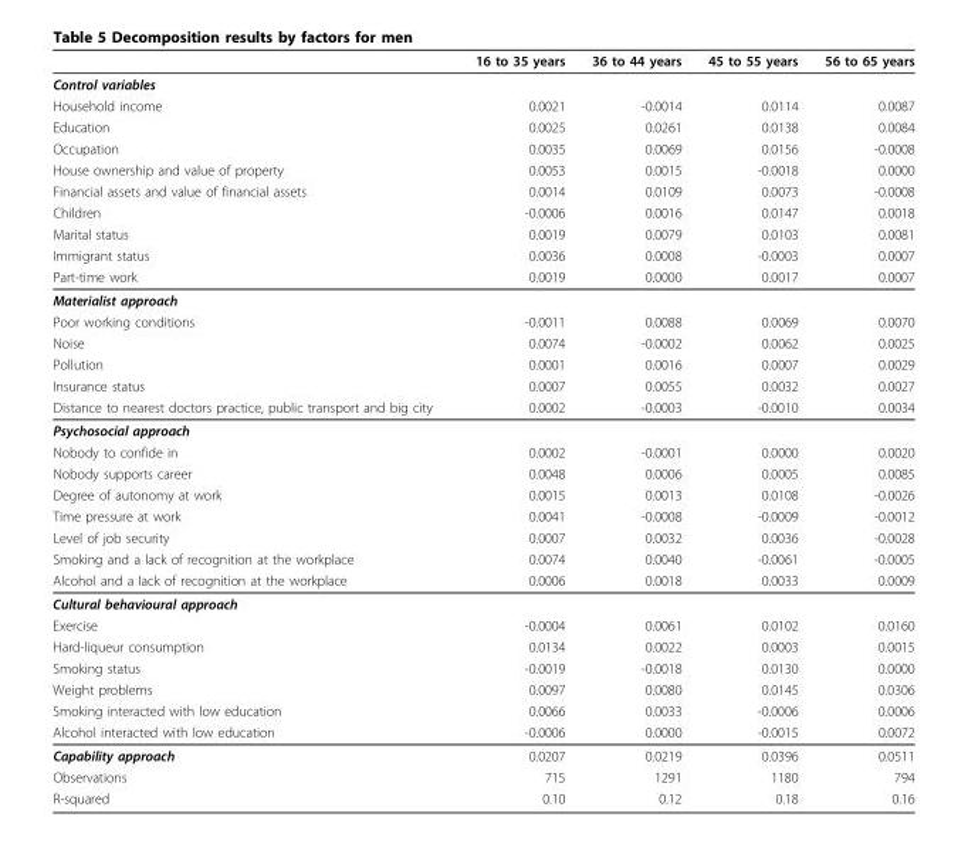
<table><thead><tr><td></td><td>16 to 35 years</td><td>36 to 44 years</td><td>45 to 55 years</td><td>56 to 65 years</td></tr></thead><tbody><tr><td colspan="5">Control variables</td></tr><tr><td>Household income</td><td>0.0021</td><td>-0.0014</td><td>0.0114</td><td>0.0087</td></tr><tr><td>Education</td><td>0.0025</td><td>0.0261</td><td>0.0138</td><td>0.0084</td></tr><tr><td>Occupation</td><td>0.0035</td><td>0.0069</td><td>0.0156</td><td>-0.0008</td></tr><tr><td>House ownership and value of property</td><td>0.0053</td><td>0.0015</td><td>-0.0018</td><td>0.0000</td></tr><tr><td>Financial assets and value of financial assets</td><td>0.0014</td><td>0.0109</td><td>0.0073</td><td>-0.0008</td></tr><tr><td>Children</td><td>-0.0006</td><td>0.0016</td><td>0.0147</td><td>0.0018</td></tr><tr><td>Marital status</td><td>0.0019</td><td>0.0079</td><td>0.0103</td><td>0.0081</td></tr><tr><td>Immigrant status</td><td>0.0036</td><td>0.0008</td><td>-0.0003</td><td>0.0007</td></tr><tr><td>Part-time work</td><td>0.0019</td><td>0.0000</td><td>0.0017</td><td>0.0007</td></tr><tr><td colspan="5">Materialist approach</td></tr><tr><td>Poor working conditions</td><td>-0.0011</td><td>0.0088</td><td>0.0069</td><td>0.0070</td></tr><tr><td>Noise</td><td>0.0074</td><td>-0.0002</td><td>0.0062</td><td>0.0025</td></tr><tr><td>Pollution</td><td>0.0001</td><td>0.0016</td><td>0.0007</td><td>0.0029</td></tr><tr><td>Insurance status</td><td>0.0007</td><td>0.0055</td><td>0.0032</td><td>0.0027</td></tr><tr><td>Distance to nearest doctors practice, public transport and big city</td><td>0.0002</td><td>-0.0003</td><td>-0.0010</td><td>0.0034</td></tr><tr><td colspan="5">Psychosocial approach</td></tr><tr><td>Nobody to confide in</td><td>0.0002</td><td>-0.0001</td><td>0.0000</td><td>0.0020</td></tr><tr><td>Nobody supports career</td><td>0.0048</td><td>0.0006</td><td>0.0005</td><td>0.0085</td></tr><tr><td>Degree of autonomy at work</td><td>0.0015</td><td>0.0013</td><td>0.0108</td><td>-0.0026</td></tr><tr><td>Time pressure at work</td><td>0.0041</td><td>-0.0008</td><td>-0.0009</td><td>-0.0012</td></tr><tr><td>Level of job security</td><td>0.0007</td><td>0.0032</td><td>0.0036</td><td>-0.0028</td></tr><tr><td>Smoking and a lack of recognition at the workplace</td><td>0.0074</td><td>0.0040</td><td>-0.0061</td><td>-0.0005</td></tr><tr><td>Alcohol and a lack of recognition at the workplace</td><td>0.0006</td><td>0.0018</td><td>0.0033</td><td>0.0009</td></tr><tr><td colspan="5">Cultural behavioural approach</td></tr><tr><td>Exercise</td><td>-0.0004</td><td>0.0061</td><td>0.0102</td><td>0.0160</td></tr><tr><td>Hard-liqueur consumption</td><td>0.0134</td><td>0.0022</td><td>0.0003</td><td>0.0015</td></tr><tr><td>Smoking status</td><td>-0.0019</td><td>-0.0018</td><td>0.0130</td><td>0.0000</td></tr><tr><td>Weight problems</td><td>0.0097</td><td>0.0080</td><td>0.0145</td><td>0.0306</td></tr><tr><td>Smoking interacted with low education</td><td>0.0066</td><td>0.0033</td><td>-0.0006</td><td>0.0006</td></tr><tr><td>Alcohol interacted with low education</td><td>-0.0006</td><td>0.0000</td><td>-0.0015</td><td>0.0072</td></tr><tr><td>Capability approach</td><td>0.0207</td><td>0.0219</td><td>0.0396</td><td>0.0511</td></tr><tr><td>Observations</td><td>715</td><td>1291</td><td>1180</td><td>794</td></tr><tr><td>R-squared</td><td>0.10</td><td>0.12</td><td>0.18</td><td>0.16</td></tr></tbody></table>